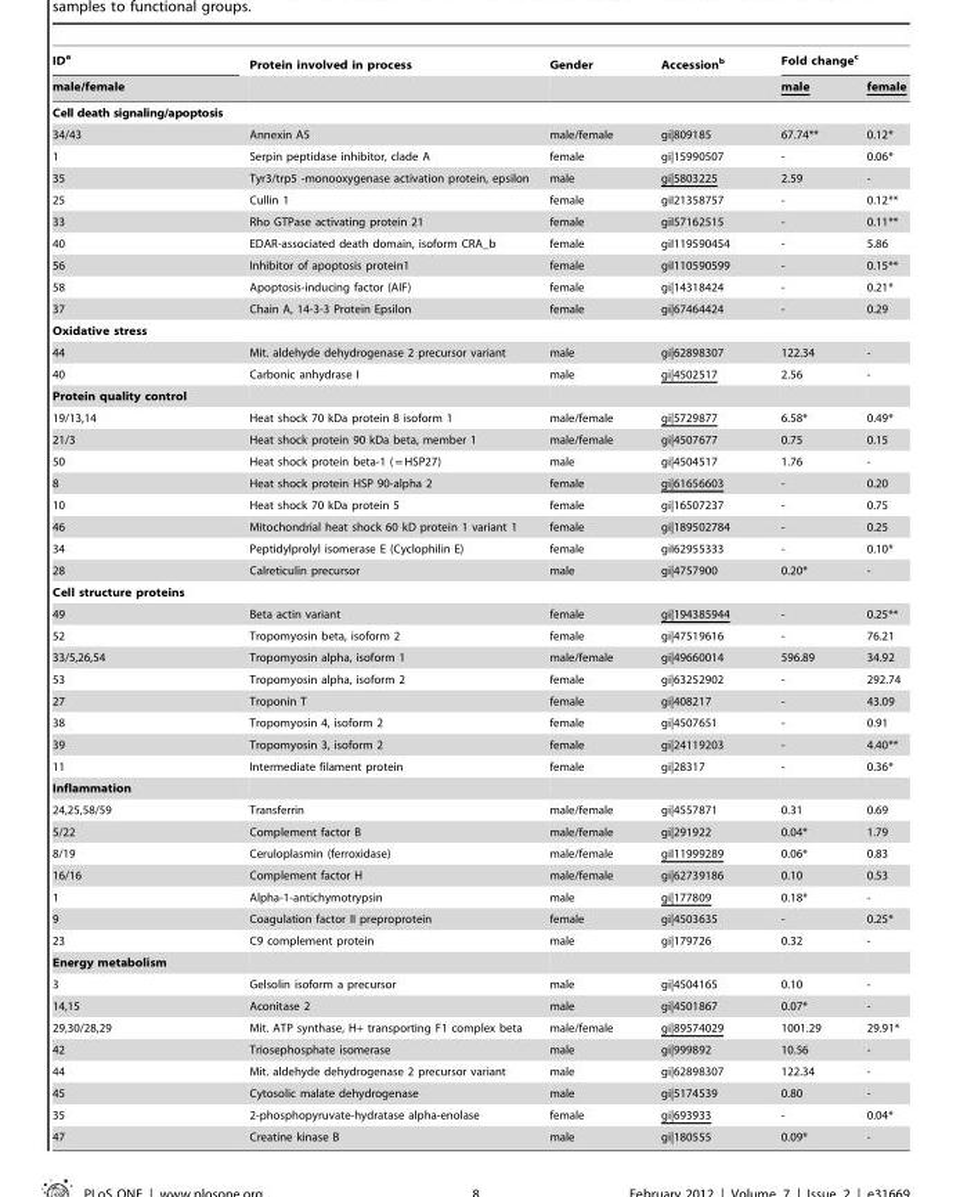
<table><thead><tr><td rowspan="2">ID<sup>a</sup> male/female</td><td rowspan="2">Protein involved in process</td><td rowspan="2">Gender</td><td rowspan="2">Accession<sup>b</sup></td><td colspan="2">Fold change<sup>c</sup></td></tr><tr><td>male</td><td>female</td></tr></thead><tbody><tr><td colspan="6">Cell death signaling/apoptosis</td></tr><tr><td>34/43</td><td>Annexin A5</td><td>male/female</td><td>gi|809185</td><td>67.74**</td><td>0.12*</td></tr><tr><td>1</td><td>Serpin peptidase inhibitor, clade A</td><td>female</td><td>gi|15990507</td><td>-</td><td>0.06*</td></tr><tr><td>35</td><td>Tyr3/trp5 -monooxygenase activation protein, epsilon</td><td>male</td><td>gi|5803225</td><td>2.59</td><td>-</td></tr><tr><td>25</td><td>Cullin 1</td><td>female</td><td>giI21358757</td><td>-</td><td>0.12**</td></tr><tr><td>33</td><td>Rho GTPase activating protein 21</td><td>female</td><td>giI57162515</td><td>-</td><td>0.11**</td></tr><tr><td>40</td><td>EDAR-associated death domain, isoform CRA_b</td><td>female</td><td>giI119590454</td><td>-</td><td>5.86</td></tr><tr><td>56</td><td>Inhibitor of apoptosis protein1</td><td>female</td><td>giI110590599</td><td>-</td><td>0.15**</td></tr><tr><td>58</td><td>Apoptosis-inducing factor (AIF)</td><td>female</td><td>gi|14318424</td><td>-</td><td>0.21*</td></tr><tr><td>37</td><td>Chain A, 14-3-3 Protein Epsilon</td><td>female</td><td>gi|67464424</td><td>-</td><td>0.29</td></tr><tr><td colspan="6">Oxidative stress</td></tr><tr><td>44</td><td>Mit. aldehyde dehydrogenase 2 precursor variant</td><td>male</td><td>gi|62898307</td><td>122.34</td><td>-</td></tr><tr><td>40</td><td>Carbonic anhydrase I</td><td>male</td><td>gi|4502517</td><td>2.56</td><td>-</td></tr><tr><td colspan="6">Protein quality control</td></tr><tr><td>19/13,14</td><td>Heat shock 70 kDa protein 8 isoform 1</td><td>male/female</td><td>gi|5729877</td><td>6.58*</td><td>0.49*</td></tr><tr><td>21/3</td><td>Heat shock protein 90 kDa beta, member 1</td><td>male/female</td><td>gi|4507677</td><td>0.75</td><td>0.15</td></tr><tr><td>50</td><td>Heat shock protein beta-1 ( = HSP27)</td><td>male</td><td>gi|4504517</td><td>1.76</td><td>-</td></tr><tr><td>8</td><td>Heat shock protein HSP 90-alpha 2</td><td>female</td><td>gi|61656603</td><td>-</td><td>0.20</td></tr><tr><td>10</td><td>Heat shock 70 kDa protein 5</td><td>female</td><td>gi|16507237</td><td>-</td><td>0.75</td></tr><tr><td>46</td><td>Mitochondrial heat shock 60 kD protein 1 variant 1</td><td>female</td><td>gi|189502784</td><td>-</td><td>0.25</td></tr><tr><td>34</td><td>Peptidylprolyl isomerase E (Cyclophilin E)</td><td>female</td><td>giI62955333</td><td>-</td><td>0.10*</td></tr><tr><td>28</td><td>Calreticulin precursor</td><td>male</td><td>gi|4757900</td><td>0.20*</td><td>-</td></tr><tr><td colspan="6">Cell structure proteins</td></tr><tr><td>49</td><td>Beta actin variant</td><td>female</td><td>gi|194385944</td><td>-</td><td>0.25**</td></tr><tr><td>52</td><td>Tropomyosin beta, isoform 2</td><td>female</td><td>gi|47519616</td><td>-</td><td>76.21</td></tr><tr><td>33/5,26,54</td><td>Tropomyosin alpha, isoform 1</td><td>male/female</td><td>gi|49660014</td><td>596.89</td><td>34.92</td></tr><tr><td>53</td><td>Tropomyosin alpha, isoform 2</td><td>female</td><td>gi|63252902</td><td>-</td><td>292.74</td></tr><tr><td>27</td><td>Troponin T</td><td>female</td><td>gi|408217</td><td>-</td><td>43.09</td></tr><tr><td>38</td><td>Tropomyosin 4, isoform 2</td><td>female</td><td>gi|4507651</td><td>-</td><td>0.91</td></tr><tr><td>39</td><td>Tropomyosin 3, isoform 2</td><td>female</td><td>gi|24119203</td><td>-</td><td>4.40**</td></tr><tr><td>11</td><td>Intermediate filament protein</td><td>female</td><td>gi|28317</td><td>-</td><td>0.36*</td></tr><tr><td colspan="6">Inflammation</td></tr><tr><td>24,25,58/59</td><td>Transferrin</td><td>male/female</td><td>gi|4557871</td><td>0.31</td><td>0.69</td></tr><tr><td>5/22</td><td>Complement factor B</td><td>male/female</td><td>gi|291922</td><td>0.04*</td><td>1.79</td></tr><tr><td>8/19</td><td>Ceruloplasmin (ferroxidase)</td><td>male/female</td><td>giI11999289</td><td>0.06*</td><td>0.83</td></tr><tr><td>16/16</td><td>Complement factor H</td><td>male/female</td><td>gi|62739186</td><td>0.10</td><td>0.53</td></tr><tr><td>1</td><td>Alpha-1-antichymotrypsin</td><td>male</td><td>gi|177809</td><td>0.18*</td><td>-</td></tr><tr><td>9</td><td>Coagulation factor II preproprotein</td><td>female</td><td>gi|4503635</td><td>-</td><td>0.25*</td></tr><tr><td>23</td><td>C9 complement protein</td><td>male</td><td>gi|179726</td><td>0.32</td><td>-</td></tr><tr><td colspan="6">Energy metabolism</td></tr><tr><td>3</td><td>Gelsolin isoform a precursor</td><td>male</td><td>gi|4504165</td><td>0.10</td><td>-</td></tr><tr><td>14,15</td><td>Aconitase 2</td><td>male</td><td>gi|4501867</td><td>0.07*</td><td>-</td></tr><tr><td>29,30/28,29</td><td>Mit. ATP synthase, H+ transporting F1 complex beta</td><td>male/female</td><td>gi|89574029</td><td>1001.29</td><td>29.91*</td></tr><tr><td>42</td><td>Triosephosphate isomerase</td><td>male</td><td>gi|999892</td><td>10.56</td><td>-</td></tr><tr><td>44</td><td>Mit. aldehyde dehydrogenase 2 precursor variant</td><td>male</td><td>gi|62898307</td><td>122.34</td><td>-</td></tr><tr><td>45</td><td>Cytosolic malate dehydrogenase</td><td>male</td><td>gi|5174539</td><td>0.80</td><td>-</td></tr><tr><td>35</td><td>2-phosphopyruvate-hydratase alpha-enolase</td><td>female</td><td>gi|693933</td><td>-</td><td>0.04*</td></tr><tr><td>47</td><td>Creatine kinase B</td><td>male</td><td>gi|180555</td><td>0.09*</td><td>-</td></tr></tbody></table>